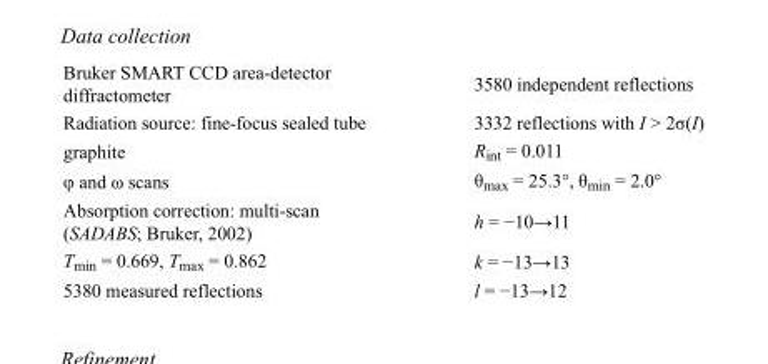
<table><tbody><tr><td>Bruker SMART CCD area-detector diffractometer</td><td>3580 independent reflections</td></tr><tr><td>Radiation source: fine-focus sealed tube</td><td>3332 reflections with I &gt; 2σ(I)</td></tr><tr><td>graphite</td><td>R<sub>int</sub> = 0.011</td></tr><tr><td>φ and ω scans</td><td>θ<sub>max</sub> = 25.3°, θ<sub>min</sub> = 2.0°</td></tr><tr><td>Absorption correction: multi-scan (SADABS; Bruker, 2002)</td><td>h = −10→11</td></tr><tr><td>T<sub>min</sub> = 0.669, T<sub>max</sub> = 0.862</td><td>k = −13→13</td></tr><tr><td>5380 measured reflections</td><td>l = −13→12</td></tr></tbody></table>